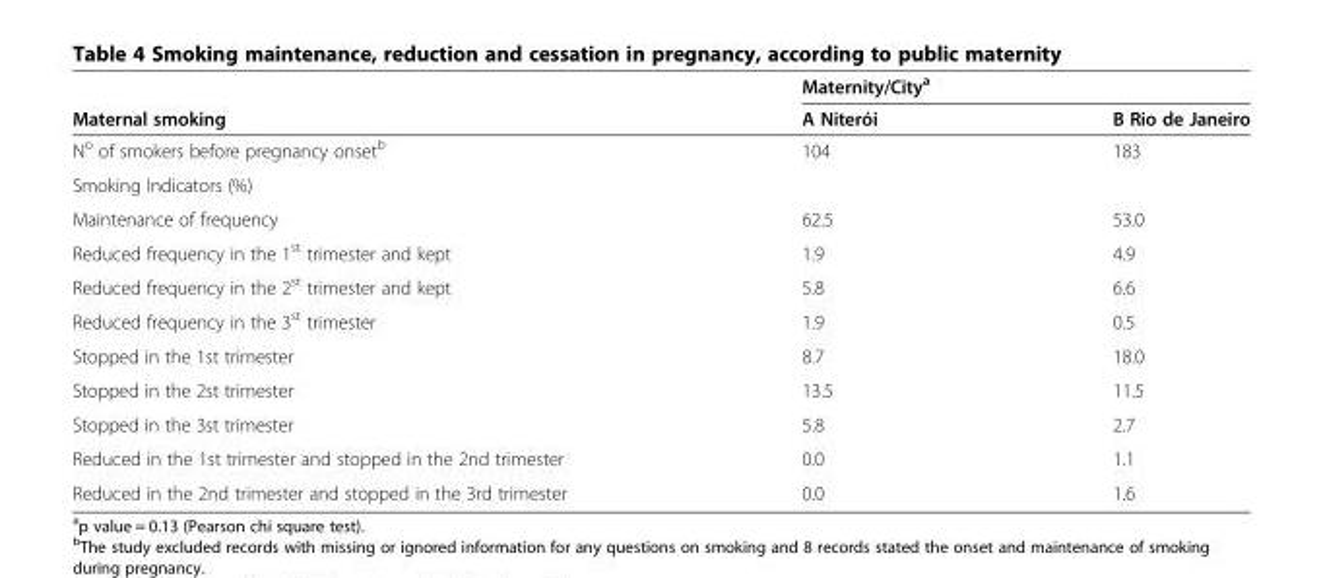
<table><thead><tr><td rowspan="2">Maternal smoking</td><td colspan="2">Maternity/City<sup>a</sup></td></tr><tr><td>A Niterói</td><td>B Rio de Janeiro</td></tr></thead><tbody><tr><td>N<sup>o</sup> of smokers before pregnancy onset<sup>b</sup></td><td>104</td><td>183</td></tr><tr><td colspan="3">Smoking Indicators (%)</td></tr><tr><td>Maintenance of frequency</td><td>62.5</td><td>53.0</td></tr><tr><td>Reduced frequency in the 1<sup>st</sup> trimester and kept</td><td>1.9</td><td>4.9</td></tr><tr><td>Reduced frequency in the 2<sup>st</sup> trimester and kept</td><td>5.8</td><td>6.6</td></tr><tr><td>Reduced frequency in the 3<sup>st</sup> trimester</td><td>1.9</td><td>0.5</td></tr><tr><td>Stopped in the 1st trimester</td><td>8.7</td><td>18.0</td></tr><tr><td>Stopped in the 2st trimester</td><td>13.5</td><td>11.5</td></tr><tr><td>Stopped in the 3st trimester</td><td>5.8</td><td>2.7</td></tr><tr><td>Reduced in the 1st trimester and stopped in the 2nd trimester</td><td>0.0</td><td>1.1</td></tr><tr><td>Reduced in the 2nd trimester and stopped in the 3rd trimester</td><td>0.0</td><td>1.6</td></tr></tbody></table>